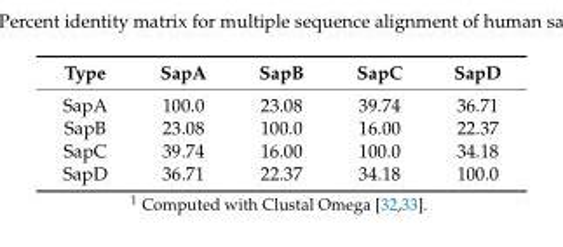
<table><thead><tr><td>Type</td><td>SapA</td><td>SapB</td><td>SapC</td><td>SapD</td></tr></thead><tbody><tr><td>SapA</td><td>100.0</td><td>23.08</td><td>39.74</td><td>36.71</td></tr><tr><td>SapB</td><td>23.08</td><td>100.0</td><td>16.00</td><td>22.37</td></tr><tr><td>SapC</td><td>39.74</td><td>16.00</td><td>100.0</td><td>34.18</td></tr><tr><td>SapD</td><td>36.71</td><td>22.37</td><td>34.18</td><td>100.0</td></tr></tbody></table>